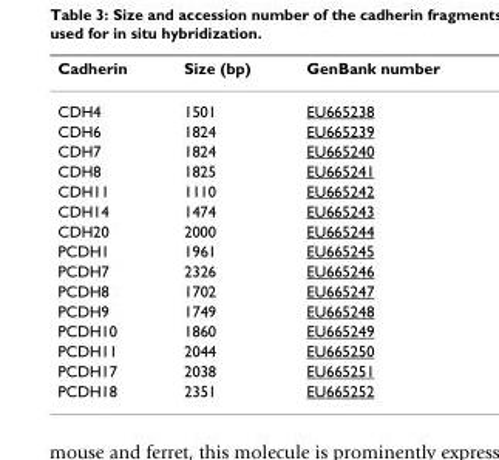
<table><thead><tr><td>Cadherin</td><td>Size (bp)</td><td>GenBank number</td></tr></thead><tbody><tr><td>CDH4</td><td>1501</td><td>EU665238</td></tr><tr><td>CDH6</td><td>1824</td><td>EU665239</td></tr><tr><td>CDH7</td><td>1824</td><td>EU665240</td></tr><tr><td>CDH8</td><td>1825</td><td>EU665241</td></tr><tr><td>CDH11</td><td>1110</td><td>EU665242</td></tr><tr><td>CDH14</td><td>1474</td><td>EU665243</td></tr><tr><td>CDH20</td><td>2000</td><td>EU665244</td></tr><tr><td>PCDH1</td><td>1961</td><td>EU665245</td></tr><tr><td>PCDH7</td><td>2326</td><td>EU665246</td></tr><tr><td>PCDH8</td><td>1702</td><td>EU665247</td></tr><tr><td>PCDH9</td><td>1749</td><td>EU665248</td></tr><tr><td>PCDH10</td><td>1860</td><td>EU665249</td></tr><tr><td>PCDH11</td><td>2044</td><td>EU665250</td></tr><tr><td>PCDH17</td><td>2038</td><td>EU665251</td></tr><tr><td>PCDH18</td><td>2351</td><td>EU665252</td></tr></tbody></table>